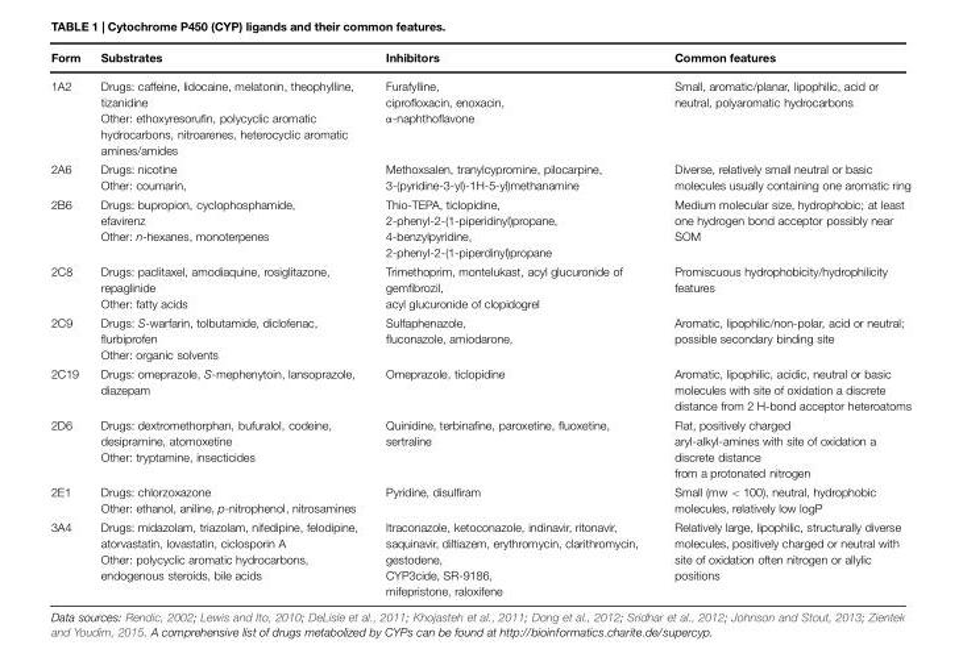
<table><thead><tr><td>Form</td><td>Substrates</td><td>Inhibitors</td><td>Common features</td></tr></thead><tbody><tr><td>1A2</td><td>Drugs: caffeine, lidocaine, melatonin, theophylline, tizanidine Other: ethoxyresorufin, polycyclic aromatic hydrocarbons, nitroarenes, heterocyclic aromatic amines/amides</td><td>Furafylline, ciprofloxacin, enoxacin, α-naphthoflavone</td><td>Small, aromatic/planar, lipophilic, acid or neutral, polyaromatic hydrocarbons</td></tr><tr><td>2A6</td><td>Drugs: nicotine Other: coumarin,</td><td>Methoxsalen, tranylcypromine, pilocarpine, 3-(pyridine-3-yl)-1H-5-yl)methanamine</td><td>Diverse, relatively small neutral or basic molecules usually containing one aromatic ring</td></tr><tr><td>2B6</td><td>Drugs: bupropion, cyclophosphamide, efavirenz Other: n-hexanes, monoterpenes</td><td>Thio-TEPA, ticlopidine, 2-phenyl-2-(1-piperidinyl)propane, 4-benzylpyridine, 2-phenyl-2-(1-piperdinyl)propane</td><td>Medium molecular size, hydrophobic; at least one hydrogen bond acceptor possibly near SOM</td></tr><tr><td>2C8</td><td>Drugs: paclitaxel, amodiaquine, rosiglitazone, repaglinide Other: fatty acids</td><td>Trimethoprim, montelukast, acyl glucuronide of gemfibrozil, acyl glucuronide of clopidogrel</td><td>Promiscuous hydrophobicity/hydrophilicity features</td></tr><tr><td>2C9</td><td>Drugs: S-warfarin, tolbutamide, diclofenac, flurbiprofen Other: organic solvents</td><td>Sulfaphenazole, fluconazole, amiodarone,</td><td>Aromatic, lipophilic/non-polar, acid or neutral; possible secondary binding site</td></tr><tr><td>2C19</td><td>Drugs: omeprazole, S-mephenytoin, lansoprazole, diazepam</td><td>Omeprazole, ticlopidine</td><td>Aromatic, lipophilic, acidic, neutral or basic molecules with site of oxidation a discrete distance from 2 H-bond acceptor heteroatoms</td></tr><tr><td>2D6</td><td>Drugs: dextromethorphan, bufuralol, codeine, desipramine, atomoxetine Other: tryptamine, insecticides</td><td>Quinidine, terbinafine, paroxetine, fluoxetine, sertraline</td><td>Flat, positively charged aryl-alkyl-amines with site of oxidation a discrete distance from a protonated nitrogen</td></tr><tr><td>2E1</td><td>Drugs: chlorzoxazone Other: ethanol, aniline, p-nitrophenol, nitrosamines</td><td>Pyridine, disulfiram</td><td>Small (mw &lt; 100), neutral, hydrophobic molecules, relatively low logP</td></tr><tr><td>3A4</td><td>Drugs: midazolam, triazolam, nifedipine, felodipine, atorvastatin, lovastatin, ciclosporin A Other: polycyclic aromatic hydrocarbons, endogenous steroids, bile acids</td><td>Itraconazole, ketoconazole, indinavir, ritonavir, saquinavir, diltiazem, erythromycin, clarithromycin, gestodene, CYP3cide, SR-9186, mifepristone, raloxifene</td><td>Relatively large, lipophilic, structurally diverse molecules, positively charged or neutral with site of oxidation often nitrogen or allylic positions</td></tr></tbody></table>